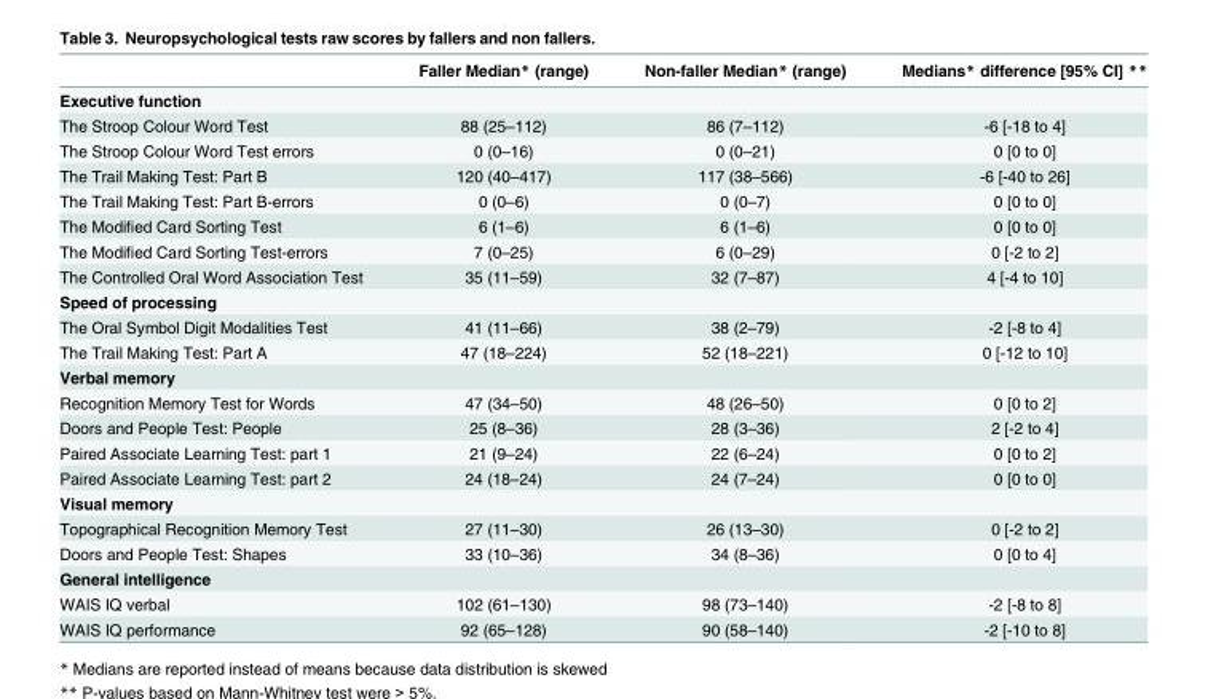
<table><thead><tr><td></td><td>Faller Median* (range)</td><td>Non-faller Median* (range)</td><td>Medians* difference [95% CI] **</td></tr></thead><tbody><tr><td colspan="4">Executive function</td></tr><tr><td>The Stroop Colour Word Test</td><td>88 (25–112)</td><td>86 (7–112)</td><td>-6 [-18 to 4]</td></tr><tr><td>The Stroop Colour Word Test errors</td><td>0 (0–16)</td><td>0 (0–21)</td><td>0 [0 to 0]</td></tr><tr><td>The Trail Making Test: Part B</td><td>120 (40–417)</td><td>117 (38–566)</td><td>-6 [-40 to 26]</td></tr><tr><td>The Trail Making Test: Part B-errors</td><td>0 (0–6)</td><td>0 (0–7)</td><td>0 [0 to 0]</td></tr><tr><td>The Modified Card Sorting Test</td><td>6 (1–6)</td><td>6 (1–6)</td><td>0 [0 to 0]</td></tr><tr><td>The Modified Card Sorting Test-errors</td><td>7 (0–25)</td><td>6 (0–29)</td><td>0 [-2 to 2]</td></tr><tr><td>The Controlled Oral Word Association Test</td><td>35 (11–59)</td><td>32 (7–87)</td><td>4 [-4 to 10]</td></tr><tr><td colspan="4">Speed of processing</td></tr><tr><td>The Oral Symbol Digit Modalities Test</td><td>41 (11–66)</td><td>38 (2–79)</td><td>-2 [-8 to 4]</td></tr><tr><td>The Trail Making Test: Part A</td><td>47 (18–224)</td><td>52 (18–221)</td><td>0 [-12 to 10]</td></tr><tr><td colspan="4">Verbal memory</td></tr><tr><td>Recognition Memory Test for Words</td><td>47 (34–50)</td><td>48 (26–50)</td><td>0 [0 to 2]</td></tr><tr><td>Doors and People Test: People</td><td>25 (8–36)</td><td>28 (3–36)</td><td>2 [-2 to 4]</td></tr><tr><td>Paired Associate Learning Test: part 1</td><td>21 (9–24)</td><td>22 (6–24)</td><td>0 [0 to 2]</td></tr><tr><td>Paired Associate Learning Test: part 2</td><td>24 (18–24)</td><td>24 (7–24)</td><td>0 [0 to 0]</td></tr><tr><td colspan="4">Visual memory</td></tr><tr><td>Topographical Recognition Memory Test</td><td>27 (11–30)</td><td>26 (13–30)</td><td>0 [-2 to 2]</td></tr><tr><td>Doors and People Test: Shapes</td><td>33 (10–36)</td><td>34 (8–36)</td><td>0 [0 to 4]</td></tr><tr><td colspan="4">General intelligence</td></tr><tr><td>WAIS IQ verbal</td><td>102 (61–130)</td><td>98 (73–140)</td><td>-2 [-8 to 8]</td></tr><tr><td>WAIS IQ performance</td><td>92 (65–128)</td><td>90 (58–140)</td><td>-2 [-10 to 8]</td></tr></tbody></table>